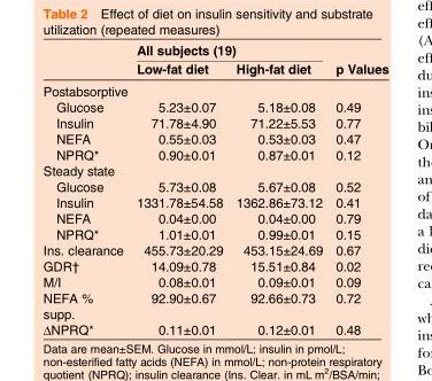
<table><thead><tr><td rowspan="2"></td><td colspan="2">All subjects (19)</td><td rowspan="2">p Values</td></tr><tr><td>Low-fat diet</td><td>High-fat diet</td></tr></thead><tbody><tr><td colspan="4">Postabsorptive</td></tr><tr><td>Glucose</td><td>5.23±0.07</td><td>5.18±0.08</td><td>0.49</td></tr><tr><td>Insulin</td><td>71.78±4.90</td><td>71.22±5.53</td><td>0.77</td></tr><tr><td>NEFA</td><td>0.55±0.03</td><td>0.53±0.03</td><td>0.47</td></tr><tr><td>NPRQ*</td><td>0.90±0.01</td><td>0.87±0.01</td><td>0.12</td></tr><tr><td colspan="4">Steady state</td></tr><tr><td>Glucose</td><td>5.73±0.08</td><td>5.67±0.08</td><td>0.52</td></tr><tr><td>Insulin</td><td>1331.78±54.58</td><td>1362.86±73.12</td><td>0.41</td></tr><tr><td>NEFA</td><td>0.04±0.00</td><td>0.04±0.00</td><td>0.79</td></tr><tr><td>NPRQ*</td><td>1.01±0.01</td><td>0.99±0.01</td><td>0.15</td></tr><tr><td>Ins. clearance</td><td>455.73±20.29</td><td>453.15±24.69</td><td>0.67</td></tr><tr><td>GDR†</td><td>14.09±0.78</td><td>15.51±0.84</td><td>0.02</td></tr><tr><td>M/I</td><td>0.08±0.01</td><td>0.09±0.01</td><td>0.09</td></tr><tr><td>NEFA % supp.</td><td>92.90±0.67</td><td>92.66±0.73</td><td>0.72</td></tr><tr><td>ΔNPRQ*</td><td>0.11±0.01</td><td>0.12±0.01</td><td>0.48</td></tr></tbody></table>